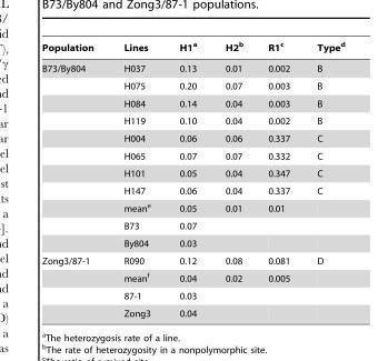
<table><thead><tr><td>Population</td><td>Lines</td><td>H1<sup>a</sup></td><td>H2<sup>b</sup></td><td>R1<sup>c</sup></td><td>Type<sup>d</sup></td></tr></thead><tbody><tr><td rowspan="11">B73/By804</td><td>H037</td><td>0.13</td><td>0.01</td><td>0.002</td><td>B</td></tr><tr><td>H075</td><td>0.20</td><td>0.07</td><td>0.003</td><td>B</td></tr><tr><td>H084</td><td>0.14</td><td>0.04</td><td>0.003</td><td>B</td></tr><tr><td>H119</td><td>0.10</td><td>0.04</td><td>0.002</td><td>B</td></tr><tr><td>H004</td><td>0.06</td><td>0.06</td><td>0.337</td><td>C</td></tr><tr><td>H065</td><td>0.07</td><td>0.07</td><td>0.332</td><td>C</td></tr><tr><td>H101</td><td>0.05</td><td>0.04</td><td>0.347</td><td>C</td></tr><tr><td>H147</td><td>0.06</td><td>0.04</td><td>0.337</td><td>C</td></tr><tr><td>mean<sup>e</sup></td><td>0.05</td><td>0.01</td><td>0.01</td><td></td></tr><tr><td>B73</td><td>0.07</td><td></td><td></td><td></td></tr><tr><td>By804</td><td>0.03</td><td></td><td></td><td></td></tr><tr><td rowspan="4">Zong3/87-1</td><td>R090</td><td>0.12</td><td>0.08</td><td>0.081</td><td>D</td></tr><tr><td>mean<sup>f</sup></td><td>0.04</td><td>0.02</td><td>0.005</td><td></td></tr><tr><td>87-1</td><td>0.03</td><td></td><td></td><td></td></tr><tr><td>Zong3</td><td>0.04</td><td></td><td></td><td></td></tr></tbody></table>